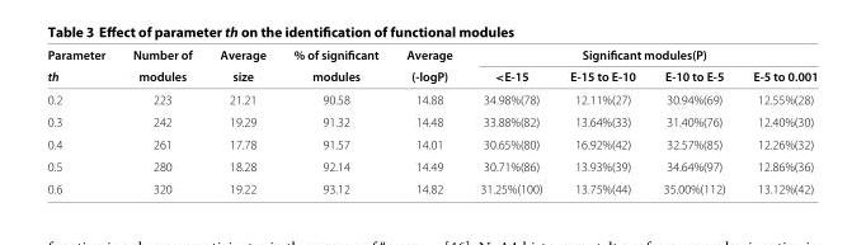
<table><thead><tr><td rowspan="2">Parameter th</td><td rowspan="2">Number of modules</td><td rowspan="2">Average size</td><td rowspan="2">% of significant modules</td><td rowspan="2">Average (-logP)</td><td colspan="4">Significant modules(P)</td></tr><tr><td>&lt;E-15</td><td>E-15 to E-10</td><td>E-10 to E-5</td><td>E-5 to 0.001</td></tr></thead><tbody><tr><td>0.2</td><td>223</td><td>21.21</td><td>90.58</td><td>14.88</td><td>34.98%(78)</td><td>12.11%(27)</td><td>30.94%(69)</td><td>12.55%(28)</td></tr><tr><td>0.3</td><td>242</td><td>19.29</td><td>91.32</td><td>14.48</td><td>33.88%(82)</td><td>13.64%(33)</td><td>31.40%(76)</td><td>12.40%(30)</td></tr><tr><td>0.4</td><td>261</td><td>17.78</td><td>91.57</td><td>14.01</td><td>30.65%(80)</td><td>16.92%(42)</td><td>32.57%(85)</td><td>12.26%(32)</td></tr><tr><td>0.5</td><td>280</td><td>18.28</td><td>92.14</td><td>14.49</td><td>30.71%(86)</td><td>13.93%(39)</td><td>34.64%(97)</td><td>12.86%(36)</td></tr><tr><td>0.6</td><td>320</td><td>19.22</td><td>93.12</td><td>14.82</td><td>31.25%(100)</td><td>13.75%(44)</td><td>35.00%(112)</td><td>13.12%(42)</td></tr></tbody></table>